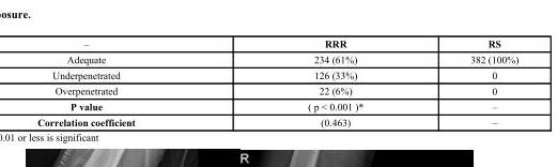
<table><tbody><tr><td>–</td><td>RRR</td><td>RS</td></tr><tr><td>Adequate</td><td>234 (61%)</td><td>382 (100%)</td></tr><tr><td>Underpenetrated</td><td>126 (33%)</td><td>0</td></tr><tr><td>Overpenetrated</td><td>22 (6%)</td><td>0</td></tr><tr><td>P value</td><td>( p &lt; 0.001 )*</td><td>–</td></tr><tr><td>Correlation coefficient</td><td>(0.463)</td><td>–</td></tr></tbody></table>